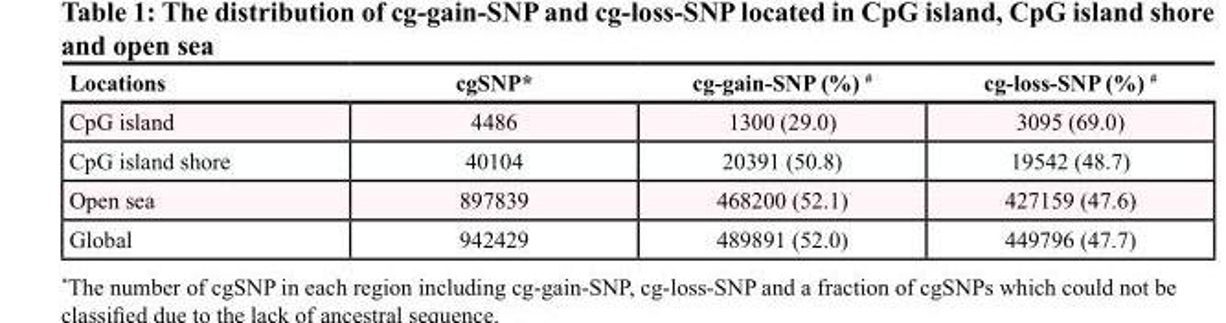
<table><thead><tr><td>Locations</td><td>cgSNP*</td><td>cg-gain-SNP (%) <sup>#</sup></td><td>cg-loss-SNP (%) <sup>#</sup></td></tr></thead><tbody><tr><td>CpG island</td><td>4486</td><td>1300 (29.0)</td><td>3095 (69.0)</td></tr><tr><td>CpG island shore</td><td>40104</td><td>20391 (50.8)</td><td>19542 (48.7)</td></tr><tr><td>Open sea</td><td>897839</td><td>468200 (52.1)</td><td>427159 (47.6)</td></tr><tr><td>Global</td><td>942429</td><td>489891 (52.0)</td><td>449796 (47.7)</td></tr></tbody></table>